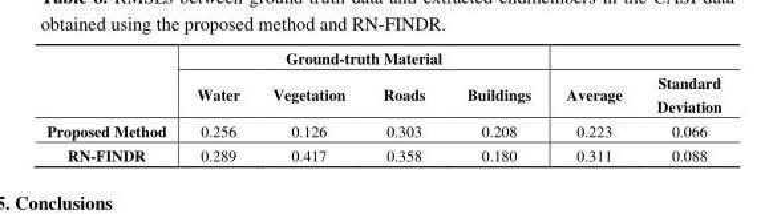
<table><thead><tr><td rowspan="2"></td><td colspan="4">Ground-truth Material</td><td rowspan="2">Average</td><td rowspan="2">Standard Deviation</td></tr><tr><td>Water</td><td>Vegetation</td><td>Roads</td><td>Buildings</td></tr></thead><tbody><tr><td>Proposed Method</td><td>0.256</td><td>0.126</td><td>0.303</td><td>0.208</td><td>0.223</td><td>0.066</td></tr><tr><td>RN-FINDR</td><td>0.289</td><td>0.417</td><td>0.358</td><td>0.180</td><td>0.311</td><td>0.088</td></tr></tbody></table>